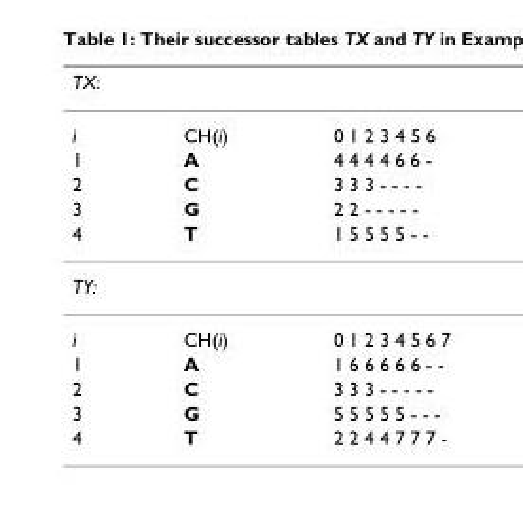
<table><thead><tr><td>TX:</td><td></td><td></td></tr></thead><tbody><tr><td>i</td><td>CH(i)</td><td>0 1 2 3 4 5 6</td></tr><tr><td>1</td><td>A</td><td>4 4 4 4 6 6 -</td></tr><tr><td>2</td><td>C</td><td>3 3 3 - - - -</td></tr><tr><td>3</td><td>G</td><td>2 2 - - - - -</td></tr><tr><td>4</td><td>T</td><td>1 5 5 5 5 - -</td></tr><tr><td colspan="3">TY:</td></tr><tr><td>i</td><td>CH(i)</td><td>0 1 2 3 4 5 6 7</td></tr><tr><td>1</td><td>A</td><td>1 6 6 6 6 6 - -</td></tr><tr><td>2</td><td>C</td><td>3 3 3 - - - - -</td></tr><tr><td>3</td><td>G</td><td>5 5 5 5 5 - - -</td></tr><tr><td>4</td><td>T</td><td>2 2 4 4 7 7 7 -</td></tr></tbody></table>